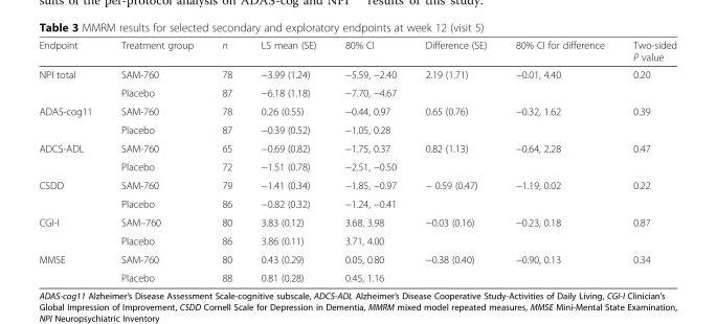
<table><thead><tr><td>Endpoint</td><td>Treatment group</td><td>n</td><td>LS mean (SE)</td><td>80% CI</td><td>Difference (SE)</td><td>80% CI for difference</td><td>Two-sided P value</td></tr></thead><tbody><tr><td rowspan="2">NPI total</td><td>SAM-760</td><td>78</td><td>−3.99 (1.24)</td><td>−5.59, −2.40</td><td rowspan="2">2.19 (1.71)</td><td rowspan="2">−0.01, 4.40</td><td rowspan="2">0.20</td></tr><tr><td>Placebo</td><td>87</td><td>−6.18 (1.18)</td><td>−7.70, −4.67</td></tr><tr><td rowspan="2">ADAS-cog11</td><td>SAM-760</td><td>78</td><td>0.26 (0.55)</td><td>−0.44, 0.97</td><td rowspan="2">0.65 (0.76)</td><td rowspan="2">−0.32, 1.62</td><td rowspan="2">0.39</td></tr><tr><td>Placebo</td><td>87</td><td>−0.39 (0.52)</td><td>−1.05, 0.28</td></tr><tr><td rowspan="2">ADCS-ADL</td><td>SAM-760</td><td>65</td><td>−0.69 (0.82)</td><td>−1.75, 0.37</td><td rowspan="2">0.82 (1.13)</td><td rowspan="2">−0.64, 2.28</td><td rowspan="2">0.47</td></tr><tr><td>Placebo</td><td>72</td><td>−1.51 (0.78)</td><td>−2.51, −0.50</td></tr><tr><td rowspan="2">CSDD</td><td>SAM-760</td><td>79</td><td>−1.41 (0.34)</td><td>−1.85, −0.97</td><td rowspan="2">− 0.59 (0.47)</td><td rowspan="2">−1.19, 0.02</td><td rowspan="2">0.22</td></tr><tr><td>Placebo</td><td>86</td><td>−0.82 (0.32)</td><td>−1.24, −0.41</td></tr><tr><td rowspan="2">CGI-I</td><td>SAM–760</td><td>80</td><td>3.83 (0.12)</td><td>3.68, 3.98</td><td rowspan="2">−0.03 (0.16)</td><td rowspan="2">−0.23, 0.18</td><td rowspan="2">0.87</td></tr><tr><td>Placebo</td><td>86</td><td>3.86 (0.11)</td><td>3.71, 4.00</td></tr><tr><td rowspan="2">MMSE</td><td>SAM-760</td><td>80</td><td>0.43 (0.29)</td><td>0.05, 0.80</td><td rowspan="2">−0.38 (0.40)</td><td rowspan="2">−0.90, 0.13</td><td rowspan="2">0.34</td></tr><tr><td>Placebo</td><td>88</td><td>0.81 (0.28)</td><td>0.45, 1.16</td></tr></tbody></table>